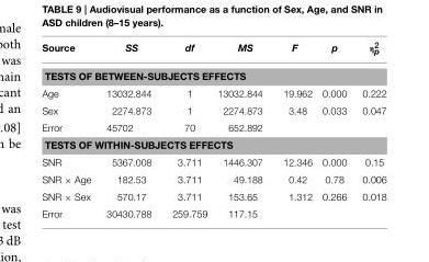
<table><thead><tr><td>Source</td><td>SS</td><td>df</td><td>MS</td><td>F</td><td>p</td><td>η<sup>2</sup><sub>p</sub></td></tr></thead><tbody><tr><td colspan="7">TESTS OF BETWEEN-SUBJECTS EFFECTS</td></tr><tr><td>Age</td><td>13032.844</td><td>1</td><td>13032.844</td><td>19.962</td><td>0.000</td><td>0.222</td></tr><tr><td>Sex</td><td>2274.873</td><td>1</td><td>2274.873</td><td>3.48</td><td>0.033</td><td>0.047</td></tr><tr><td>Error</td><td>45702</td><td>70</td><td>652.892</td><td></td><td></td><td></td></tr><tr><td colspan="7">TESTS OF WITHIN-SUBJECTS EFFECTS</td></tr><tr><td>SNR</td><td>5367.008</td><td>3.711</td><td>1446.307</td><td>12.346</td><td>0.000</td><td>0.15</td></tr><tr><td>SNR × Age</td><td>182.53</td><td>3.711</td><td>49.188</td><td>0.42</td><td>0.78</td><td>0.006</td></tr><tr><td>SNR × Sex</td><td>570.17</td><td>3.711</td><td>153.65</td><td>1.312</td><td>0.266</td><td>0.018</td></tr><tr><td>Error</td><td>30430.788</td><td>259.759</td><td>117.15</td><td></td><td></td><td></td></tr></tbody></table>